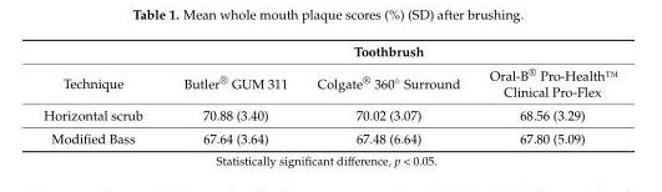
<table><thead><tr><td></td><td></td><td>Toothbrush</td><td></td></tr></thead><tbody><tr><td>Technique</td><td>Butler<sup>®</sup> GUM 311</td><td>Colgate® 360◦ Surround</td><td>Oral-B<sup>®</sup> Pro-Health™ Clinical Pro-Flex</td></tr><tr><td>Horizontal scrub</td><td>70.88 (3.40)</td><td>70.02 (3.07)</td><td>68.56 (3.29)</td></tr><tr><td>Modified Bass</td><td>67.64 (3.64)</td><td>67.48 (6.64)</td><td>67.80 (5.09)</td></tr></tbody></table>